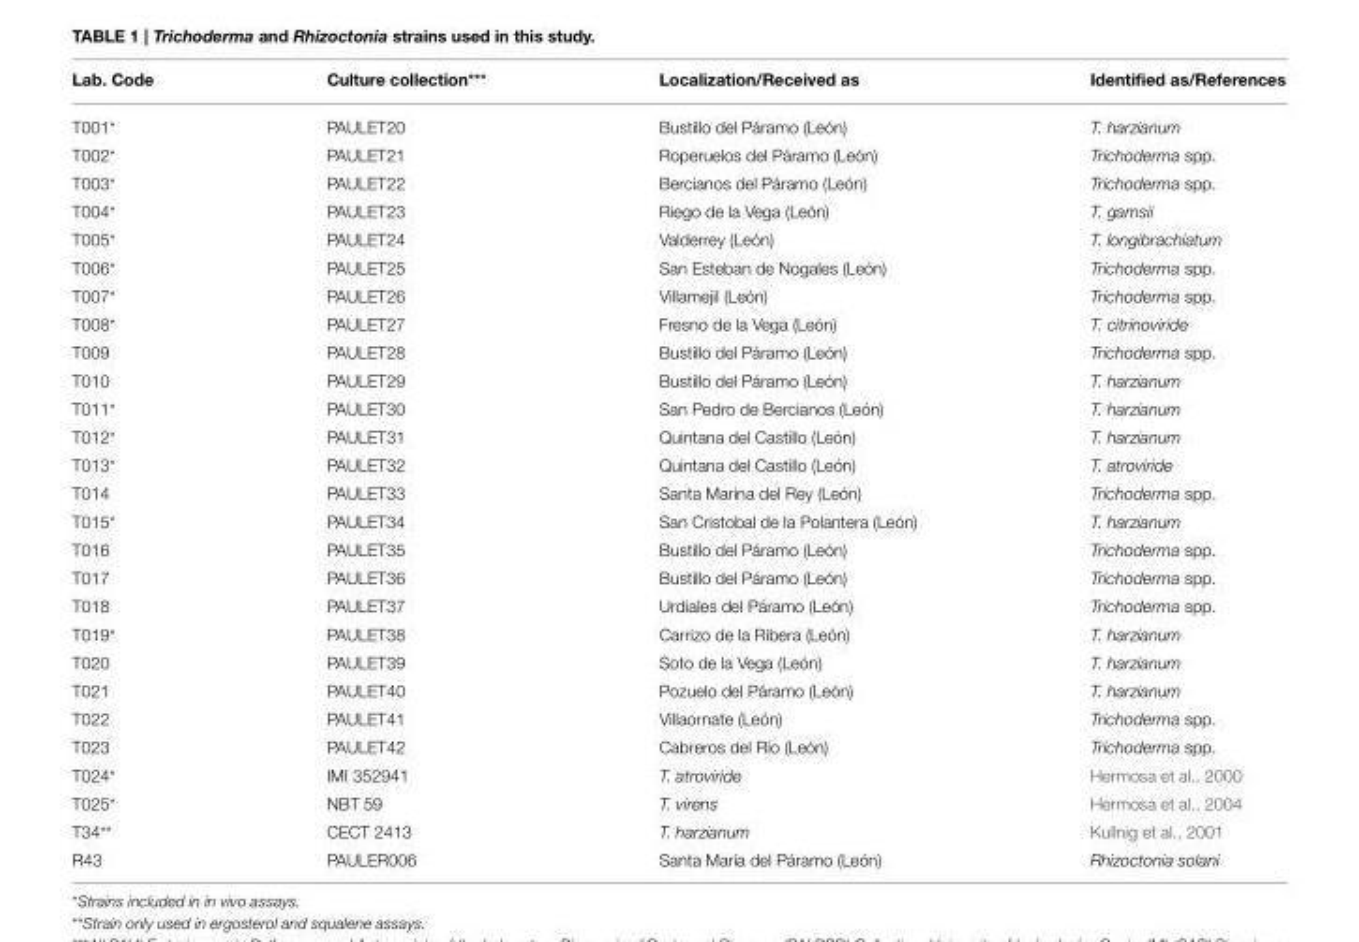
<table><thead><tr><td>Lab. Code</td><td>Culture collection***</td><td>Localization/Received as</td><td>Identified as/References</td></tr></thead><tbody><tr><td>T001*</td><td>PAULET20</td><td>Bustillo del Páramo (León)</td><td>T. harzianum</td></tr><tr><td>T002*</td><td>PAULET21</td><td>Roperuelos del Páramo (León)</td><td>Trichoderma spp.</td></tr><tr><td>T003*</td><td>PAULET22</td><td>Bercianos del Páramo (León)</td><td>Trichoderma spp.</td></tr><tr><td>T004*</td><td>PAULET23</td><td>Riego de la Vega (León)</td><td>T. gamsii</td></tr><tr><td>T005*</td><td>PAULET24</td><td>Valderrey (León)</td><td>T. longibrachiatum</td></tr><tr><td>T006*</td><td>PAULET25</td><td>San Esteban de Nogales (León)</td><td>Trichoderma spp.</td></tr><tr><td>T007*</td><td>PAULET26</td><td>Villamejil (León)</td><td>Trichoderma spp.</td></tr><tr><td>T008*</td><td>PAULET27</td><td>Fresno de la Vega (León)</td><td>T. citrinoviride</td></tr><tr><td>T009</td><td>PAULET28</td><td>Bustillo del Páramo (León)</td><td>Trichoderma spp.</td></tr><tr><td>T010</td><td>PAULET29</td><td>Bustillo del Páramo (León)</td><td>T. harzianum</td></tr><tr><td>T011*</td><td>PAULET30</td><td>San Pedro de Bercianos (León)</td><td>T. harzianum</td></tr><tr><td>T012*</td><td>PAULET31</td><td>Quintana del Castillo (León)</td><td>T. harzianum</td></tr><tr><td>T013*</td><td>PAULET32</td><td>Quintana del Castillo (León)</td><td>T. atroviride</td></tr><tr><td>T014</td><td>PAULET33</td><td>Santa Marina del Rey (León)</td><td>Trichoderma spp.</td></tr><tr><td>T015*</td><td>PAULET34</td><td>San Cristobal de la Polantera (León)</td><td>T. harzianum</td></tr><tr><td>T016</td><td>PAULET35</td><td>Bustillo del Páramo (León)</td><td>Trichoderma spp.</td></tr><tr><td>T017</td><td>PAULET36</td><td>Bustillo del Páramo (León)</td><td>Trichoderma spp.</td></tr><tr><td>T018</td><td>PAULET37</td><td>Urdiales del Páramo (León)</td><td>Trichoderma spp.</td></tr><tr><td>T019*</td><td>PAULET38</td><td>Carrizo de la Ribera (León)</td><td>T. harzianum</td></tr><tr><td>T020</td><td>PAULET39</td><td>Soto de la Vega (León)</td><td>T. harzianum</td></tr><tr><td>T021</td><td>PAULET40</td><td>Pozuelo del Páramo (León)</td><td>T. harzianum</td></tr><tr><td>T022</td><td>PAULET41</td><td>Villaornate (León)</td><td>Trichoderma spp.</td></tr><tr><td>T023</td><td>PAULET42</td><td>Cabreros del Río (León)</td><td>Trichoderma spp.</td></tr><tr><td>T024*</td><td>IMI 352941</td><td>T. atroviride</td><td>Hermosa et al., 2000</td></tr><tr><td>T025*</td><td>NBT 59</td><td>T. virens</td><td>Hermosa et al., 2004</td></tr><tr><td>T34**</td><td>CECT 2413</td><td>T. harzianum</td><td>Kullnig et al., 2001</td></tr><tr><td>R43</td><td>PAULER006</td><td>Santa María del Páramo (León)</td><td>Rhizoctonia solani</td></tr></tbody></table>